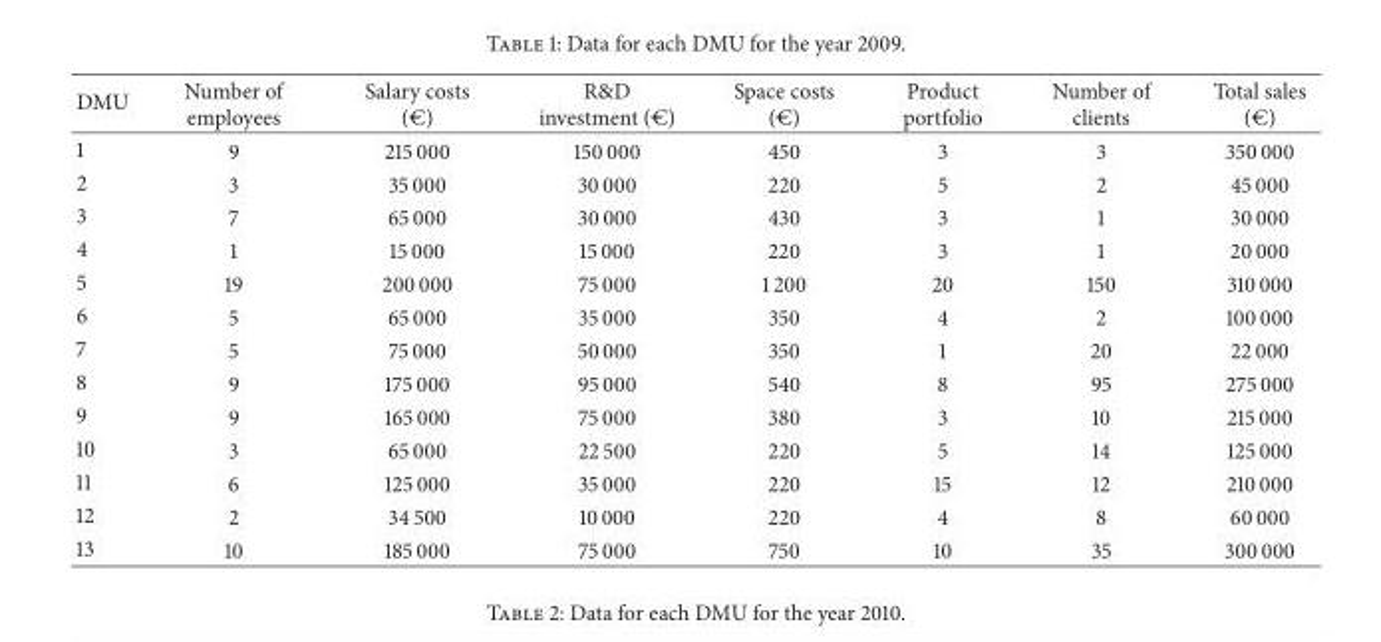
<table><thead><tr><td>DMU</td><td>Number of employees</td><td>Salary costs (€)</td><td>R&amp;D investment (€)</td><td>Space costs (€)</td><td>Product portfolio</td><td>Number of clients</td><td>Total sales (€)</td></tr></thead><tbody><tr><td>1</td><td>9</td><td>215 000</td><td>150 000</td><td>450</td><td>3</td><td>3</td><td>350 000</td></tr><tr><td>2</td><td>3</td><td>35 000</td><td>30 000</td><td>220</td><td>5</td><td>2</td><td>45 000</td></tr><tr><td>3</td><td>7</td><td>65 000</td><td>30 000</td><td>430</td><td>3</td><td>1</td><td>30 000</td></tr><tr><td>4</td><td>1</td><td>15 000</td><td>15 000</td><td>220</td><td>3</td><td>1</td><td>20 000</td></tr><tr><td>5</td><td>19</td><td>200 000</td><td>75 000</td><td>1 200</td><td>20</td><td>150</td><td>310 000</td></tr><tr><td>6</td><td>5</td><td>65 000</td><td>35 000</td><td>350</td><td>4</td><td>2</td><td>100 000</td></tr><tr><td>7</td><td>5</td><td>75 000</td><td>50 000</td><td>350</td><td>1</td><td>20</td><td>22 000</td></tr><tr><td>8</td><td>9</td><td>175 000</td><td>95 000</td><td>540</td><td>8</td><td>95</td><td>275 000</td></tr><tr><td>9</td><td>9</td><td>165 000</td><td>75 000</td><td>380</td><td>3</td><td>10</td><td>215 000</td></tr><tr><td>10</td><td>3</td><td>65 000</td><td>22 500</td><td>220</td><td>5</td><td>14</td><td>125 000</td></tr><tr><td>11</td><td>6</td><td>125 000</td><td>35 000</td><td>220</td><td>15</td><td>12</td><td>210 000</td></tr><tr><td>12</td><td>2</td><td>34 500</td><td>10 000</td><td>220</td><td>4</td><td>8</td><td>60 000</td></tr><tr><td>13</td><td>10</td><td>185 000</td><td>75 000</td><td>750</td><td>10</td><td>35</td><td>300 000</td></tr></tbody></table>